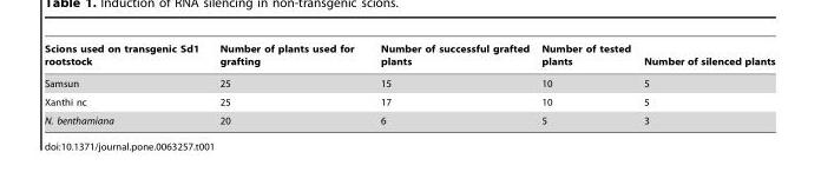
<table><thead><tr><td>Scions used on transgenic Sd1 rootstock</td><td>Number of plants used for grafting</td><td>Number of successful grafted plants</td><td>Number of tested plants</td><td>Number of silenced plants</td></tr></thead><tbody><tr><td>Samsun</td><td>25</td><td>15</td><td>10</td><td>5</td></tr><tr><td>Xanthi nc</td><td>25</td><td>17</td><td>10</td><td>5</td></tr><tr><td>N. benthamiana</td><td>20</td><td>6</td><td>5</td><td>3</td></tr></tbody></table>